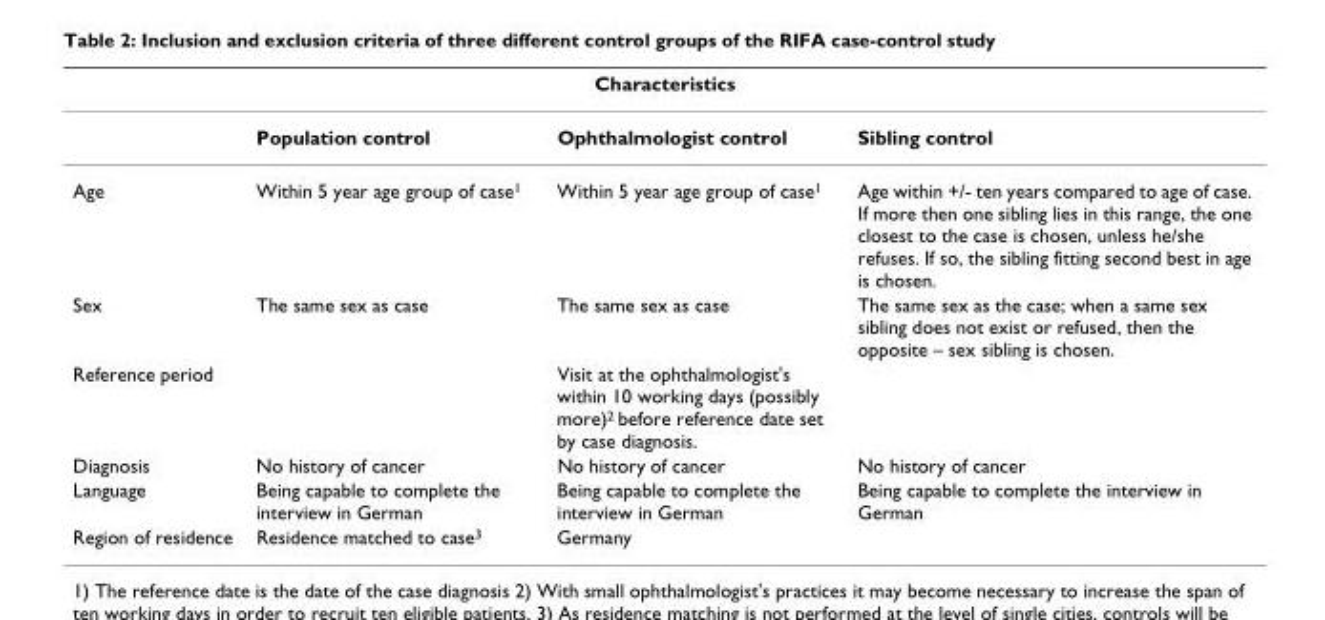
<table><thead><tr><td colspan="4">Characteristics</td></tr><tr><td></td><td>Population control</td><td>Ophthalmologist control</td><td>Sibling control</td></tr></thead><tbody><tr><td>Age</td><td>Within 5 year age group of case1</td><td>Within 5 year age group of case1</td><td>Age within +/- ten years compared to age of case. If more then one sibling lies in this range, the one closest to the case is chosen, unless he/she refuses. If so, the sibling fitting second best in age is chosen.</td></tr><tr><td>Sex</td><td>The same sex as case</td><td>The same sex as case</td><td>The same sex as the case; when a same sex sibling does not exist or refused, then the opposite – sex sibling is chosen.</td></tr><tr><td>Reference period</td><td></td><td>Visit at the ophthalmologist&#x27;s within 10 working days (possibly more)2 before reference date set by case diagnosis.</td><td></td></tr><tr><td>Diagnosis</td><td>No history of cancer</td><td>No history of cancer</td><td>No history of cancer</td></tr><tr><td>Language</td><td>Being capable to complete the interview in German</td><td>Being capable to complete the interview in German</td><td>Being capable to complete the interview in German</td></tr><tr><td>Region of residence</td><td>Residence matched to case3</td><td>Germany</td><td></td></tr></tbody></table>